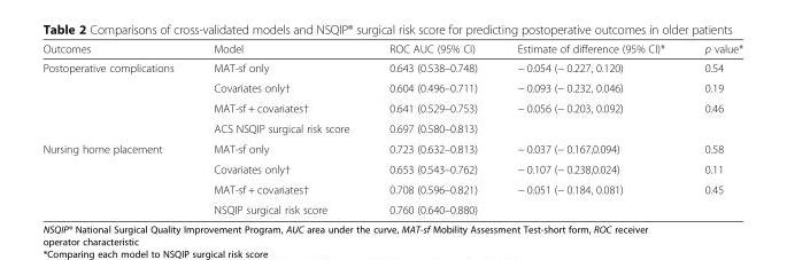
<table><thead><tr><td>Outcomes</td><td>Model</td><td>ROC AUC (95% CI)</td><td>Estimate of difference (95% CI)*</td><td>p value*</td></tr></thead><tbody><tr><td rowspan="4">Postoperative complications</td><td>MAT-sf only</td><td>0.643 (0.538–0.748)</td><td>− 0.054 (− 0.227, 0.120)</td><td>0.54</td></tr><tr><td>Covariates only†</td><td>0.604 (0.496–0.711)</td><td>− 0.093 (− 0.232, 0.046)</td><td>0.19</td></tr><tr><td>MAT-sf + covariates†</td><td>0.641 (0.529–0.753)</td><td>− 0.056 (− 0.203, 0.092)</td><td>0.46</td></tr><tr><td>ACS NSQIP surgical risk score</td><td>0.697 (0.580–0.813)</td><td></td><td></td></tr><tr><td rowspan="4">Nursing home placement</td><td>MAT-sf only</td><td>0.723 (0.632–0.813)</td><td>− 0.037 (− 0.167,0.094)</td><td>0.58</td></tr><tr><td>Covariates only†</td><td>0.653 (0.543–0.762)</td><td>− 0.107 (− 0.238,0.024)</td><td>0.11</td></tr><tr><td>MAT-sf + covariates†</td><td>0.708 (0.596–0.821)</td><td>− 0.051 (− 0.184, 0.081)</td><td>0.45</td></tr><tr><td>NSQIP surgical risk score</td><td>0.760 (0.640–0.880)</td><td></td><td></td></tr></tbody></table>